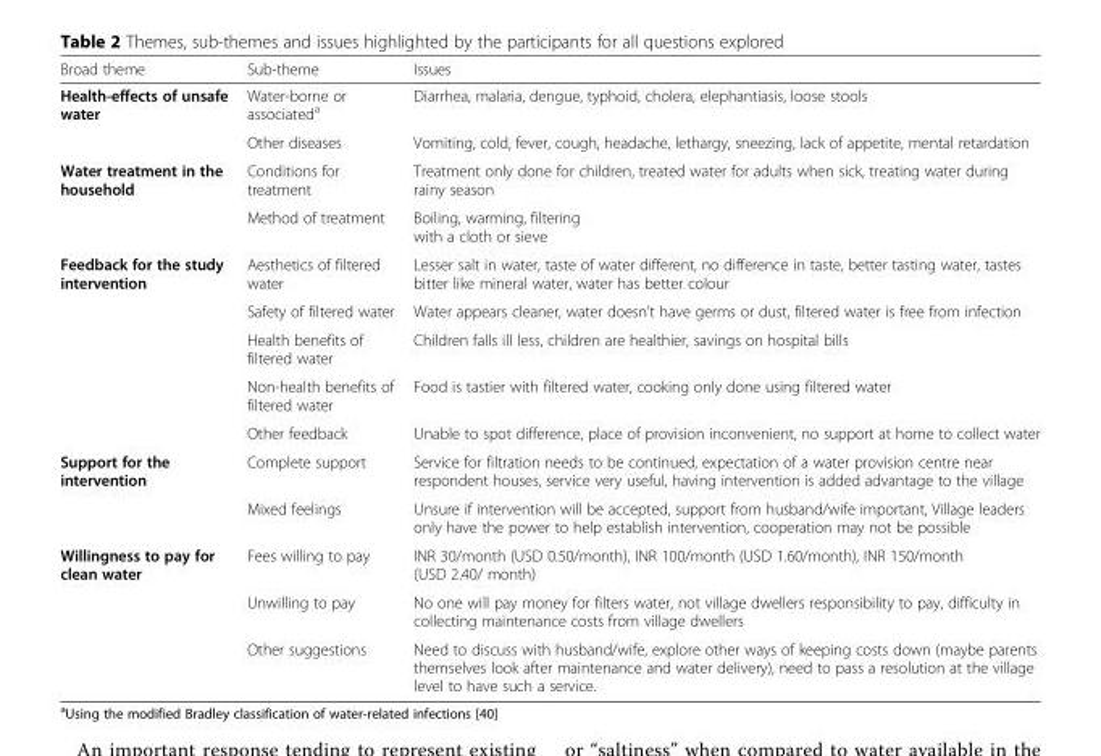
<table><thead><tr><td>Broad theme</td><td>Sub-theme</td><td>Issues</td></tr></thead><tbody><tr><td rowspan="2">Health-effects of unsafe water</td><td>Water-borne or associated<sup>a</sup></td><td>Diarrhea, malaria, dengue, typhoid, cholera, elephantiasis, loose stools</td></tr><tr><td>Other diseases</td><td>Vomiting, cold, fever, cough, headache, lethargy, sneezing, lack of appetite, mental retardation</td></tr><tr><td rowspan="2">Water treatment in the household</td><td>Conditions for treatment</td><td>Treatment only done for children, treated water for adults when sick, treating water during rainy season</td></tr><tr><td>Method of treatment</td><td>Boiling, warming, filtering with a cloth or sieve</td></tr><tr><td rowspan="5">Feedback for the study intervention</td><td>Aesthetics of filtered water</td><td>Lesser salt in water, taste of water different, no difference in taste, better tasting water, tastes bitter like mineral water, water has better colour</td></tr><tr><td>Safety of filtered water</td><td>Water appears cleaner, water doesn’t have germs or dust, filtered water is free from infection</td></tr><tr><td>Health benefits of filtered water</td><td>Children falls ill less, children are healthier, savings on hospital bills</td></tr><tr><td>Non-health benefits of filtered water</td><td>Food is tastier with filtered water, cooking only done using filtered water</td></tr><tr><td>Other feedback</td><td>Unable to spot difference, place of provision inconvenient, no support at home to collect water</td></tr><tr><td rowspan="2">Support for the intervention</td><td>Complete support</td><td>Service for filtration needs to be continued, expectation of a water provision centre near respondent houses, service very useful, having intervention is added advantage to the village</td></tr><tr><td>Mixed feelings</td><td>Unsure if intervention will be accepted, support from husband/wife important, Village leaders only have the power to help establish intervention, cooperation may not be possible</td></tr><tr><td rowspan="3">Willingness to pay for clean water</td><td>Fees willing to pay</td><td>INR 30/month (USD 0.50/month), INR 100/month (USD 1.60/month), INR 150/month (USD 2.40/ month)</td></tr><tr><td>Unwilling to pay</td><td>No one will pay money for filters water, not village dwellers responsibility to pay, difficulty in collecting maintenance costs from village dwellers</td></tr><tr><td>Other suggestions</td><td>Need to discuss with husband/wife, explore other ways of keeping costs down (maybe parents themselves look after maintenance and water delivery), need to pass a resolution at the village level to have such a service.</td></tr></tbody></table>